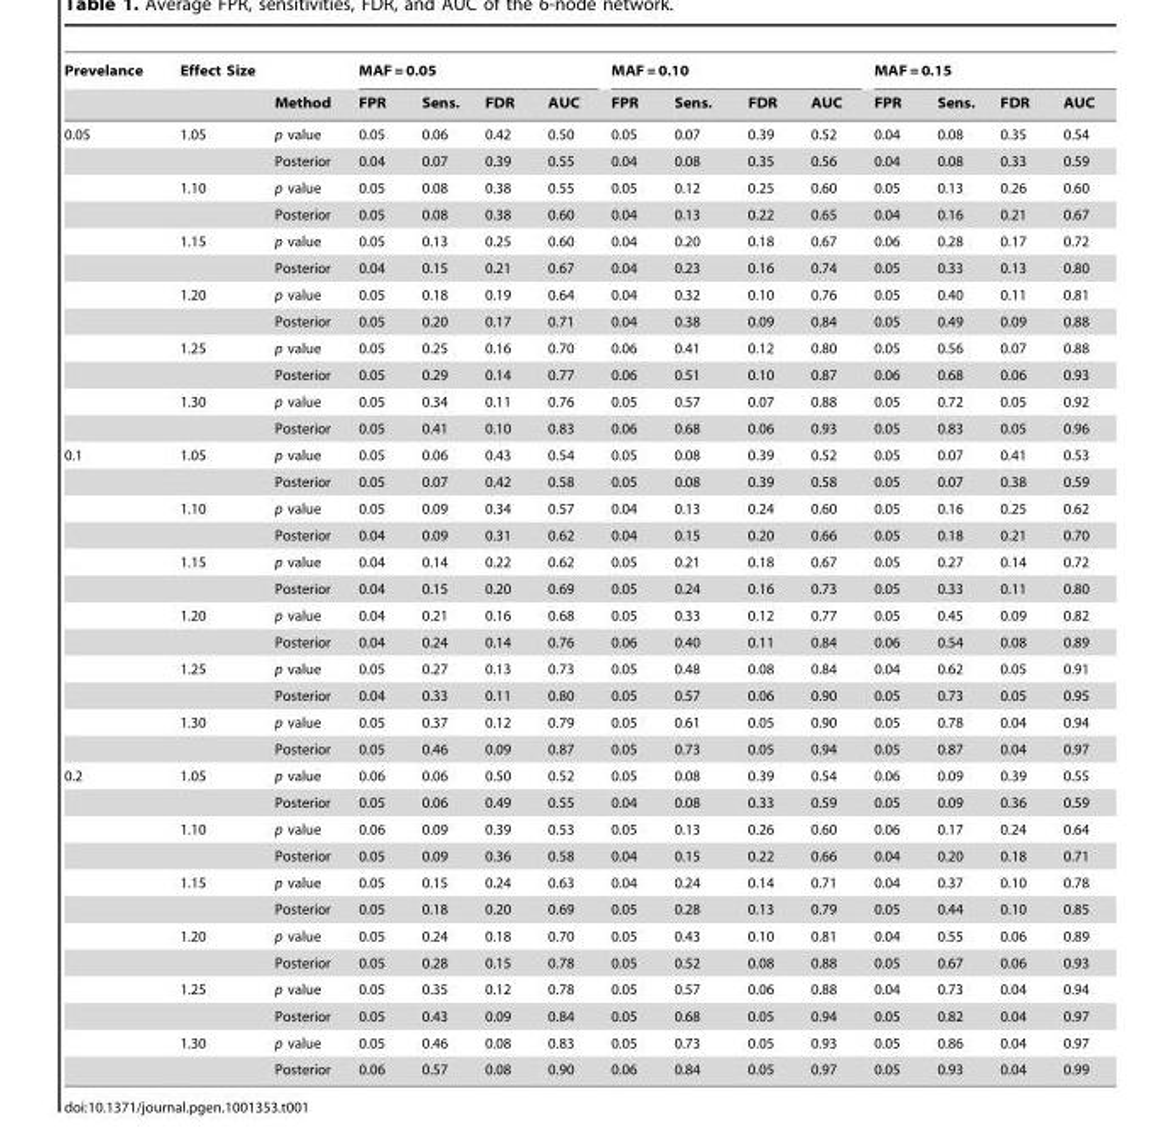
<table><thead><tr><td rowspan="2">Prevelance</td><td rowspan="2">Effect Size</td><td rowspan="2">Method</td><td colspan="4">MAF = 0.05</td><td colspan="4">MAF = 0.10</td><td colspan="4">MAF = 0.15</td></tr><tr><td>FPR</td><td>Sens.</td><td>FDR</td><td>AUC</td><td>FPR</td><td>Sens.</td><td>FDR</td><td>AUC</td><td>FPR</td><td>Sens.</td><td>FDR</td><td>AUC</td></tr></thead><tbody><tr><td rowspan="12">0.05</td><td>1.05</td><td>p value</td><td>0.05</td><td>0.06</td><td>0.42</td><td>0.50</td><td>0.05</td><td>0.07</td><td>0.39</td><td>0.52</td><td>0.04</td><td>0.08</td><td>0.35</td><td>0.54</td></tr><tr><td></td><td>Posterior</td><td>0.04</td><td>0.07</td><td>0.39</td><td>0.55</td><td>0.04</td><td>0.08</td><td>0.35</td><td>0.56</td><td>0.04</td><td>0.08</td><td>0.33</td><td>0.59</td></tr><tr><td>1.10</td><td>p value</td><td>0.05</td><td>0.08</td><td>0.38</td><td>0.55</td><td>0.05</td><td>0.12</td><td>0.25</td><td>0.60</td><td>0.05</td><td>0.13</td><td>0.26</td><td>0.60</td></tr><tr><td></td><td>Posterior</td><td>0.05</td><td>0.08</td><td>0.38</td><td>0.60</td><td>0.04</td><td>0.13</td><td>0.22</td><td>0.65</td><td>0.04</td><td>0.16</td><td>0.21</td><td>0.67</td></tr><tr><td>1.15</td><td>p value</td><td>0.05</td><td>0.13</td><td>0.25</td><td>0.60</td><td>0.04</td><td>0.20</td><td>0.18</td><td>0.67</td><td>0.06</td><td>0.28</td><td>0.17</td><td>0.72</td></tr><tr><td></td><td>Posterior</td><td>0.04</td><td>0.15</td><td>0.21</td><td>0.67</td><td>0.04</td><td>0.23</td><td>0.16</td><td>0.74</td><td>0.05</td><td>0.33</td><td>0.13</td><td>0.80</td></tr><tr><td>1.20</td><td>p value</td><td>0.05</td><td>0.18</td><td>0.19</td><td>0.64</td><td>0.04</td><td>0.32</td><td>0.10</td><td>0.76</td><td>0.05</td><td>0.40</td><td>0.11</td><td>0.81</td></tr><tr><td></td><td>Posterior</td><td>0.05</td><td>0.20</td><td>0.17</td><td>0.71</td><td>0.04</td><td>0.38</td><td>0.09</td><td>0.84</td><td>0.05</td><td>0.49</td><td>0.09</td><td>0.88</td></tr><tr><td>1.25</td><td>p value</td><td>0.05</td><td>0.25</td><td>0.16</td><td>0.70</td><td>0.06</td><td>0.41</td><td>0.12</td><td>0.80</td><td>0.05</td><td>0.56</td><td>0.07</td><td>0.88</td></tr><tr><td></td><td>Posterior</td><td>0.05</td><td>0.29</td><td>0.14</td><td>0.77</td><td>0.06</td><td>0.51</td><td>0.10</td><td>0.87</td><td>0.06</td><td>0.68</td><td>0.06</td><td>0.93</td></tr><tr><td>1.30</td><td>p value</td><td>0.05</td><td>0.34</td><td>0.11</td><td>0.76</td><td>0.05</td><td>0.57</td><td>0.07</td><td>0.88</td><td>0.05</td><td>0.72</td><td>0.05</td><td>0.92</td></tr><tr><td></td><td>Posterior</td><td>0.05</td><td>0.41</td><td>0.10</td><td>0.83</td><td>0.06</td><td>0.68</td><td>0.06</td><td>0.93</td><td>0.05</td><td>0.83</td><td>0.05</td><td>0.96</td></tr><tr><td rowspan="12">0.1</td><td>1.05</td><td>p value</td><td>0.05</td><td>0.06</td><td>0.43</td><td>0.54</td><td>0.05</td><td>0.08</td><td>0.39</td><td>0.52</td><td>0.05</td><td>0.07</td><td>0.41</td><td>0.53</td></tr><tr><td></td><td>Posterior</td><td>0.05</td><td>0.07</td><td>0.42</td><td>0.58</td><td>0.05</td><td>0.08</td><td>0.39</td><td>0.58</td><td>0.05</td><td>0.07</td><td>0.38</td><td>0.59</td></tr><tr><td>1.10</td><td>p value</td><td>0.05</td><td>0.09</td><td>0.34</td><td>0.57</td><td>0.04</td><td>0.13</td><td>0.24</td><td>0.60</td><td>0.05</td><td>0.16</td><td>0.25</td><td>0.62</td></tr><tr><td></td><td>Posterior</td><td>0.04</td><td>0.09</td><td>0.31</td><td>0.62</td><td>0.04</td><td>0.15</td><td>0.20</td><td>0.66</td><td>0.05</td><td>0.18</td><td>0.21</td><td>0.70</td></tr><tr><td>1.15</td><td>p value</td><td>0.04</td><td>0.14</td><td>0.22</td><td>0.62</td><td>0.05</td><td>0.21</td><td>0.18</td><td>0.67</td><td>0.05</td><td>0.27</td><td>0.14</td><td>0.72</td></tr><tr><td></td><td>Posterior</td><td>0.04</td><td>0.15</td><td>0.20</td><td>0.69</td><td>0.05</td><td>0.24</td><td>0.16</td><td>0.73</td><td>0.05</td><td>0.33</td><td>0.11</td><td>0.80</td></tr><tr><td>1.20</td><td>p value</td><td>0.04</td><td>0.21</td><td>0.16</td><td>0.68</td><td>0.05</td><td>0.33</td><td>0.12</td><td>0.77</td><td>0.05</td><td>0.45</td><td>0.09</td><td>0.82</td></tr><tr><td></td><td>Posterior</td><td>0.04</td><td>0.24</td><td>0.14</td><td>0.76</td><td>0.06</td><td>0.40</td><td>0.11</td><td>0.84</td><td>0.06</td><td>0.54</td><td>0.08</td><td>0.89</td></tr><tr><td>1.25</td><td>p value</td><td>0.05</td><td>0.27</td><td>0.13</td><td>0.73</td><td>0.05</td><td>0.48</td><td>0.08</td><td>0.84</td><td>0.04</td><td>0.62</td><td>0.05</td><td>0.91</td></tr><tr><td></td><td>Posterior</td><td>0.04</td><td>0.33</td><td>0.11</td><td>0.80</td><td>0.05</td><td>0.57</td><td>0.06</td><td>0.90</td><td>0.05</td><td>0.73</td><td>0.05</td><td>0.95</td></tr><tr><td>1.30</td><td>p value</td><td>0.05</td><td>0.37</td><td>0.12</td><td>0.79</td><td>0.05</td><td>0.61</td><td>0.05</td><td>0.90</td><td>0.05</td><td>0.78</td><td>0.04</td><td>0.94</td></tr><tr><td></td><td>Posterior</td><td>0.05</td><td>0.46</td><td>0.09</td><td>0.87</td><td>0.05</td><td>0.73</td><td>0.05</td><td>0.94</td><td>0.05</td><td>0.87</td><td>0.04</td><td>0.97</td></tr><tr><td rowspan="12">0.2</td><td>1.05</td><td>p value</td><td>0.06</td><td>0.06</td><td>0.50</td><td>0.52</td><td>0.05</td><td>0.08</td><td>0.39</td><td>0.54</td><td>0.06</td><td>0.09</td><td>0.39</td><td>0.55</td></tr><tr><td></td><td>Posterior</td><td>0.05</td><td>0.06</td><td>0.49</td><td>0.55</td><td>0.04</td><td>0.08</td><td>0.33</td><td>0.59</td><td>0.05</td><td>0.09</td><td>0.36</td><td>0.59</td></tr><tr><td>1.10</td><td>p value</td><td>0.06</td><td>0.09</td><td>0.39</td><td>0.53</td><td>0.05</td><td>0.13</td><td>0.26</td><td>0.60</td><td>0.06</td><td>0.17</td><td>0.24</td><td>0.64</td></tr><tr><td></td><td>Posterior</td><td>0.05</td><td>0.09</td><td>0.36</td><td>0.58</td><td>0.04</td><td>0.15</td><td>0.22</td><td>0.66</td><td>0.04</td><td>0.20</td><td>0.18</td><td>0.71</td></tr><tr><td>1.15</td><td>p value</td><td>0.05</td><td>0.15</td><td>0.24</td><td>0.63</td><td>0.04</td><td>0.24</td><td>0.14</td><td>0.71</td><td>0.04</td><td>0.37</td><td>0.10</td><td>0.78</td></tr><tr><td></td><td>Posterior</td><td>0.05</td><td>0.18</td><td>0.20</td><td>0.69</td><td>0.05</td><td>0.28</td><td>0.13</td><td>0.79</td><td>0.05</td><td>0.44</td><td>0.10</td><td>0.85</td></tr><tr><td>1.20</td><td>p value</td><td>0.05</td><td>0.24</td><td>0.18</td><td>0.70</td><td>0.05</td><td>0.43</td><td>0.10</td><td>0.81</td><td>0.04</td><td>0.55</td><td>0.06</td><td>0.89</td></tr><tr><td></td><td>Posterior</td><td>0.05</td><td>0.28</td><td>0.15</td><td>0.78</td><td>0.05</td><td>0.52</td><td>0.08</td><td>0.88</td><td>0.05</td><td>0.67</td><td>0.06</td><td>0.93</td></tr><tr><td>1.25</td><td>p value</td><td>0.05</td><td>0.35</td><td>0.12</td><td>0.78</td><td>0.05</td><td>0.57</td><td>0.06</td><td>0.88</td><td>0.04</td><td>0.73</td><td>0.04</td><td>0.94</td></tr><tr><td></td><td>Posterior</td><td>0.05</td><td>0.43</td><td>0.09</td><td>0.84</td><td>0.05</td><td>0.68</td><td>0.05</td><td>0.94</td><td>0.05</td><td>0.82</td><td>0.04</td><td>0.97</td></tr><tr><td>1.30</td><td>p value</td><td>0.05</td><td>0.46</td><td>0.08</td><td>0.83</td><td>0.05</td><td>0.73</td><td>0.05</td><td>0.93</td><td>0.05</td><td>0.86</td><td>0.04</td><td>0.97</td></tr><tr><td></td><td>Posterior</td><td>0.06</td><td>0.57</td><td>0.08</td><td>0.90</td><td>0.06</td><td>0.84</td><td>0.05</td><td>0.97</td><td>0.05</td><td>0.93</td><td>0.04</td><td>0.99</td></tr></tbody></table>